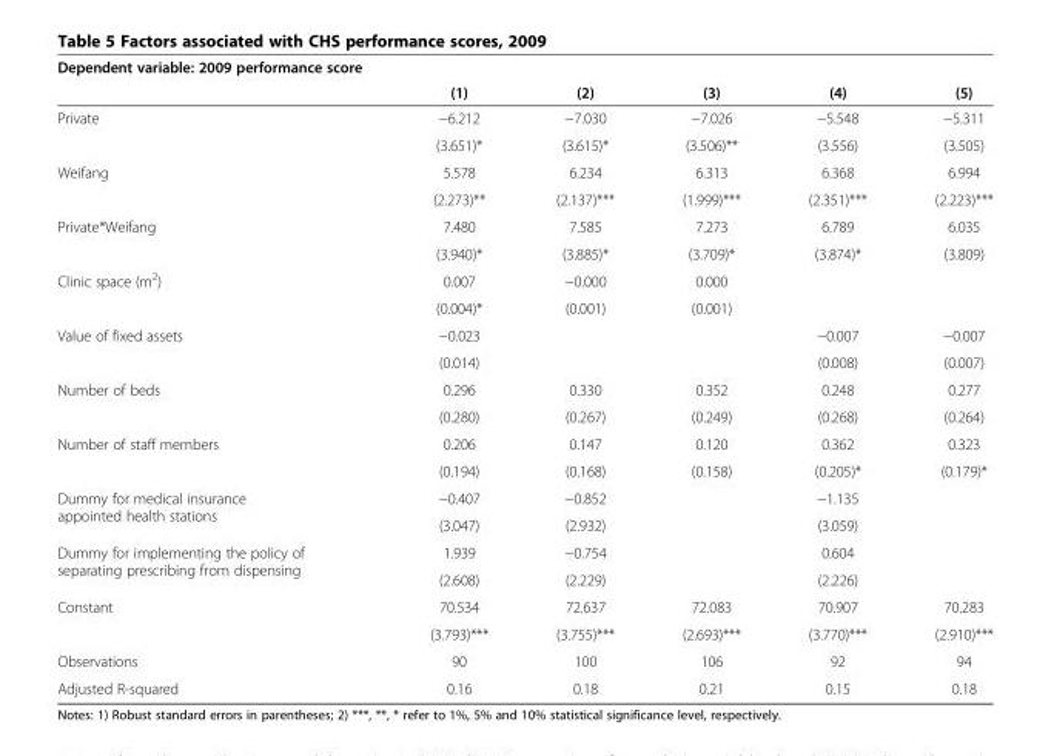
<table><thead><tr><td rowspan="2">Dependent variable: 2009 performance score</td><td rowspan="2">(1)</td><td rowspan="2">(2)</td><td rowspan="2">(3)</td><td rowspan="2">(4)</td><td rowspan="2">(5)</td></tr><tr></tr></thead><tbody><tr><td rowspan="2">Private</td><td>−6.212</td><td>−7.030</td><td>−7.026</td><td>−5.548</td><td>−5.311</td></tr><tr><td>(3.651)*</td><td>(3.615)*</td><td>(3.506)**</td><td>(3.556)</td><td>(3.505)</td></tr><tr><td rowspan="2">Weifang</td><td>5.578</td><td>6.234</td><td>6.313</td><td>6.368</td><td>6.994</td></tr><tr><td>(2.273)**</td><td>(2.137)***</td><td>(1.999)***</td><td>(2.351)***</td><td>(2.223)***</td></tr><tr><td rowspan="2">Private*Weifang</td><td>7.480</td><td>7.585</td><td>7.273</td><td>6.789</td><td>6.035</td></tr><tr><td>(3.940)*</td><td>(3.885)*</td><td>(3.709)*</td><td>(3.874)*</td><td>(3.809)</td></tr><tr><td rowspan="2">Clinic space (m<sup>2</sup>)</td><td>0.007</td><td>−0.000</td><td>0.000</td><td></td><td></td></tr><tr><td>(0.004)*</td><td>(0.001)</td><td>(0.001)</td><td></td><td></td></tr><tr><td rowspan="2">Value of fixed assets</td><td>−0.023</td><td></td><td></td><td>−0.007</td><td>−0.007</td></tr><tr><td>(0.014)</td><td></td><td></td><td>(0.008)</td><td>(0.007)</td></tr><tr><td rowspan="2">Number of beds</td><td>0.296</td><td>0.330</td><td>0.352</td><td>0.248</td><td>0.277</td></tr><tr><td>(0.280)</td><td>(0.267)</td><td>(0.249)</td><td>(0.268)</td><td>(0.264)</td></tr><tr><td rowspan="2">Number of staff members</td><td>0.206</td><td>0.147</td><td>0.120</td><td>0.362</td><td>0.323</td></tr><tr><td>(0.194)</td><td>(0.168)</td><td>(0.158)</td><td>(0.205)*</td><td>(0.179)*</td></tr><tr><td rowspan="2">Dummy for medical insurance appointed health stations</td><td>−0.407</td><td>−0.852</td><td></td><td>−1.135</td><td></td></tr><tr><td>(3.047)</td><td>(2.932)</td><td></td><td>(3.059)</td><td></td></tr><tr><td rowspan="2">Dummy for implementing the policy of separating prescribing from dispensing</td><td>1.939</td><td>−0.754</td><td></td><td>0.604</td><td></td></tr><tr><td>(2.608)</td><td>(2.229)</td><td></td><td>(2.226)</td><td></td></tr><tr><td rowspan="2">Constant</td><td>70.534</td><td>72.637</td><td>72.083</td><td>70.907</td><td>70.283</td></tr><tr><td>(3.793)***</td><td>(3.755)***</td><td>(2.693)***</td><td>(3.770)***</td><td>(2.910)***</td></tr><tr><td>Observations</td><td>90</td><td>100</td><td>106</td><td>92</td><td>94</td></tr><tr><td>Adjusted R-squared</td><td>0.16</td><td>0.18</td><td>0.21</td><td>0.15</td><td>0.18</td></tr></tbody></table>